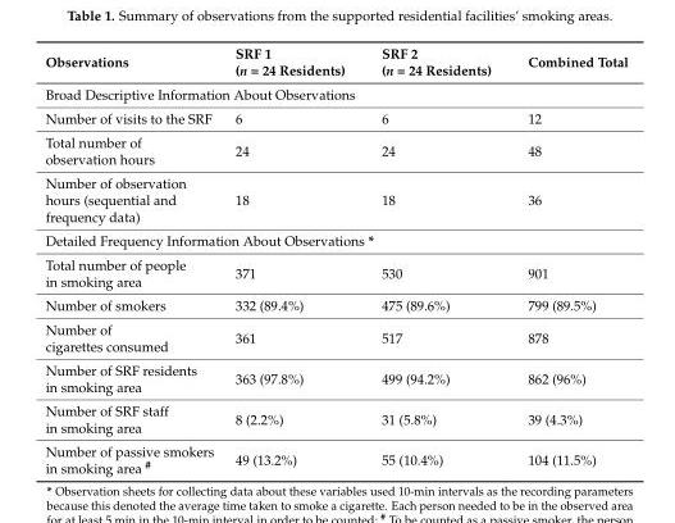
<table><thead><tr><td>Observations</td><td>SRF 1 (n = 24 Residents)</td><td>SRF 2 (n = 24 Residents)</td><td>Combined Total</td></tr></thead><tbody><tr><td colspan="4">Broad Descriptive Information About Observations</td></tr><tr><td>Number of visits to the SRF</td><td>6</td><td>6</td><td>12</td></tr><tr><td>Total number of observation hours</td><td>24</td><td>24</td><td>48</td></tr><tr><td>Number of observation hours (sequential and frequency data)</td><td>18</td><td>18</td><td>36</td></tr><tr><td colspan="4">Detailed Frequency Information About Observations *</td></tr><tr><td>Total number of people in smoking area</td><td>371</td><td>530</td><td>901</td></tr><tr><td>Number of smokers</td><td>332 (89.4%)</td><td>475 (89.6%)</td><td>799 (89.5%)</td></tr><tr><td>Number of cigarettes consumed</td><td>361</td><td>517</td><td>878</td></tr><tr><td>Number of SRF residents in smoking area</td><td>363 (97.8%)</td><td>499 (94.2%)</td><td>862 (96%)</td></tr><tr><td>Number of SRF staff in smoking area</td><td>8 (2.2%)</td><td>31 (5.8%)</td><td>39 (4.3%)</td></tr><tr><td>Number of passive smokers in smoking area <sup>#</sup></td><td>49 (13.2%)</td><td>55 (10.4%)</td><td>104 (11.5%)</td></tr></tbody></table>